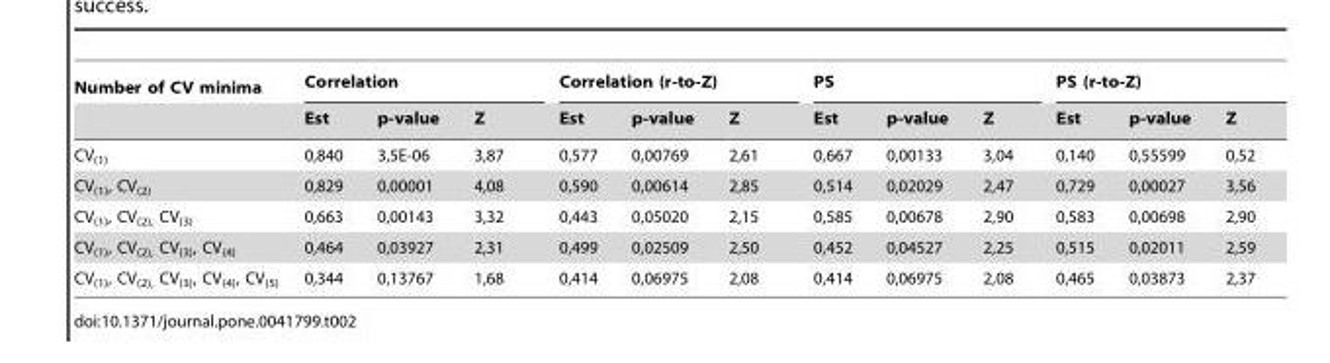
<table><thead><tr><td rowspan="2">Number of CV minima</td><td colspan="3">Correlation</td><td colspan="3">Correlation (r-to-Z)</td><td colspan="3">PS</td><td colspan="3">PS (r-to-Z)</td></tr><tr><td>Est</td><td>p-value</td><td>Z</td><td>Est</td><td>p-value</td><td>Z</td><td>Est</td><td>p-value</td><td>Z</td><td>Est</td><td>p-value</td><td>Z</td></tr></thead><tbody><tr><td>CV<sub>(1)</sub></td><td>0,840</td><td>3,5E-06</td><td>3,87</td><td>0,577</td><td>0,00769</td><td>2,61</td><td>0,667</td><td>0,00133</td><td>3,04</td><td>0,140</td><td>0,55599</td><td>0,52</td></tr><tr><td>CV<sub>(1)</sub>, CV<sub>(2)</sub></td><td>0,829</td><td>0,00001</td><td>4,08</td><td>0,590</td><td>0,00614</td><td>2,85</td><td>0,514</td><td>0,02029</td><td>2,47</td><td>0,729</td><td>0,00027</td><td>3,56</td></tr><tr><td>CV<sub>(1)</sub>, CV<sub>(2),</sub> CV<sub>(3)</sub></td><td>0,663</td><td>0,00143</td><td>3,32</td><td>0,443</td><td>0,05020</td><td>2,15</td><td>0,585</td><td>0,00678</td><td>2,90</td><td>0,583</td><td>0,00698</td><td>2,90</td></tr><tr><td>CV<sub>(1)</sub>, CV<sub>(2),</sub> CV<sub>(3)</sub>, CV<sub>(4)</sub></td><td>0,464</td><td>0,03927</td><td>2,31</td><td>0,499</td><td>0,02509</td><td>2,50</td><td>0,452</td><td>0,04527</td><td>2,25</td><td>0,515</td><td>0,02011</td><td>2,59</td></tr><tr><td>CV<sub>(1)</sub>, CV<sub>(2),</sub> CV<sub>(3)</sub>, CV<sub>(4)</sub>, CV<sub>(5)</sub></td><td>0,344</td><td>0,13767</td><td>1,68</td><td>0,414</td><td>0,06975</td><td>2,08</td><td>0,414</td><td>0,06975</td><td>2,08</td><td>0,465</td><td>0,03873</td><td>2,37</td></tr></tbody></table>